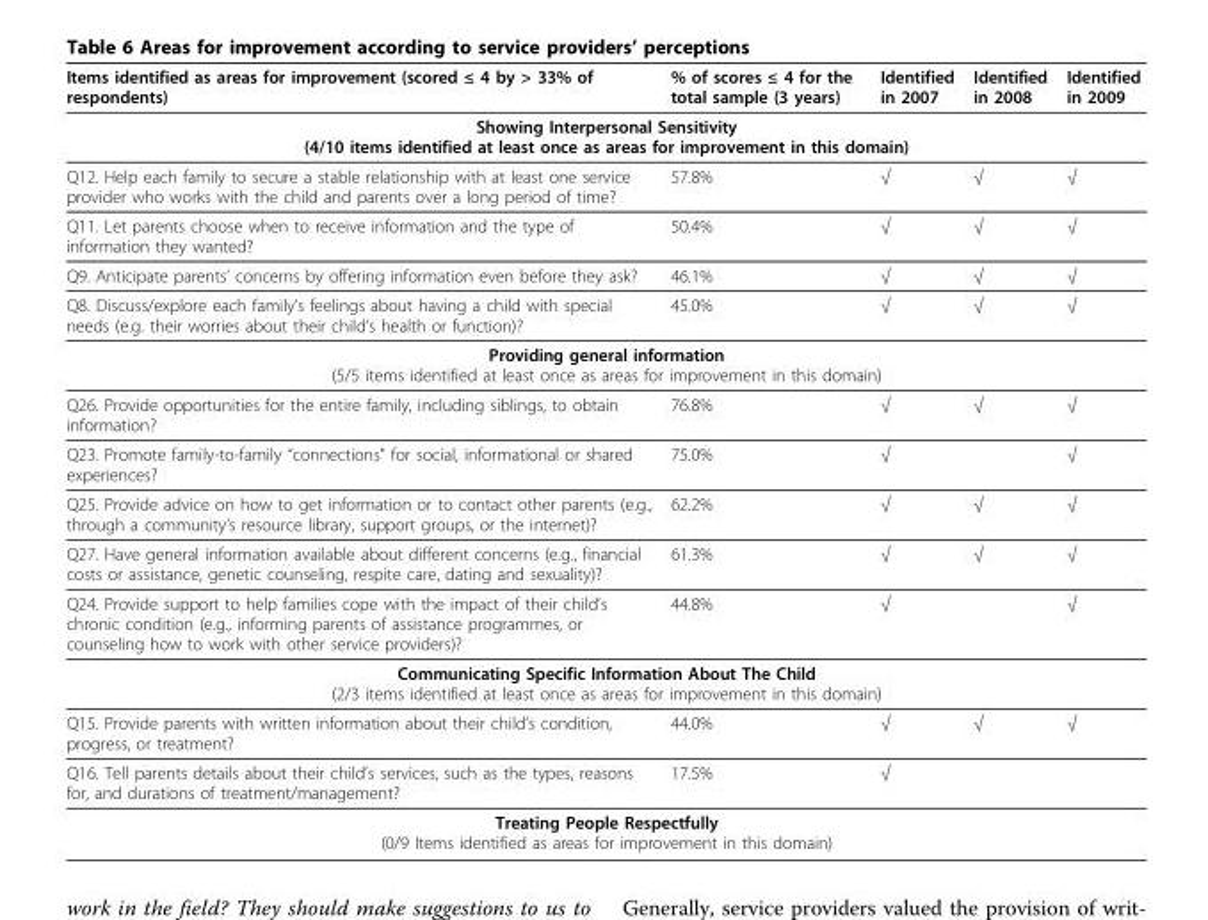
<table><thead><tr><td>Items identified as areas for improvement (scored ≤ 4 by &gt; 33% of respondents)</td><td>% of scores ≤ 4 for the total sample (3 years)</td><td>Identified in 2007</td><td>Identified in 2008</td><td>Identified in 2009</td></tr></thead><tbody><tr><td colspan="5">Showing Interpersonal Sensitivity (4/10 items identified at least once as areas for improvement in this domain)</td></tr><tr><td>Q12. Help each family to secure a stable relationship with at least one service provider who works with the child and parents over a long period of time?</td><td>57.8%</td><td>√</td><td>√</td><td>√</td></tr><tr><td>Q11. Let parents choose when to receive information and the type of information they wanted?</td><td>50.4%</td><td>√</td><td>√</td><td>√</td></tr><tr><td>Q9. Anticipate parents’ concerns by offering information even before they ask?</td><td>46.1%</td><td>√</td><td>√</td><td>√</td></tr><tr><td>Q8. Discuss/explore each family’s feelings about having a child with special needs (e.g. their worries about their child’s health or function)?</td><td>45.0%</td><td>√</td><td>√</td><td>√</td></tr><tr><td colspan="5">Providing general information (5/5 items identified at least once as areas for improvement in this domain)</td></tr><tr><td>Q26. Provide opportunities for the entire family, including siblings, to obtain information?</td><td>76.8%</td><td>√</td><td>√</td><td>√</td></tr><tr><td>Q23. Promote family-to-family “connections” for social, informational or shared experiences?</td><td>75.0%</td><td>√</td><td></td><td>√</td></tr><tr><td>Q25. Provide advice on how to get information or to contact other parents (e.g., through a community’s resource library, support groups, or the internet)?</td><td>62.2%</td><td>√</td><td>√</td><td>√</td></tr><tr><td>Q27. Have general information available about different concerns (e.g., financial costs or assistance, genetic counseling, respite care, dating and sexuality)?</td><td>61.3%</td><td>√</td><td>√</td><td>√</td></tr><tr><td>Q24. Provide support to help families cope with the impact of their child’s chronic condition (e.g., informing parents of assistance programmes, or counseling how to work with other service providers)?</td><td>44.8%</td><td>√</td><td></td><td>√</td></tr><tr><td colspan="5">Communicating Specific Information About The Child (2/3 items identified at least once as areas for improvement in this domain)</td></tr><tr><td>Q15. Provide parents with written information about their child’s condition, progress, or treatment?</td><td>44.0%</td><td>√</td><td>√</td><td>√</td></tr><tr><td>Q16. Tell parents details about their child’s services, such as the types, reasons for, and durations of treatment/management?</td><td>17.5%</td><td>√</td><td></td><td></td></tr><tr><td colspan="5">Treating People Respectfully (0/9 Items identified as areas for improvement in this domain)</td></tr></tbody></table>